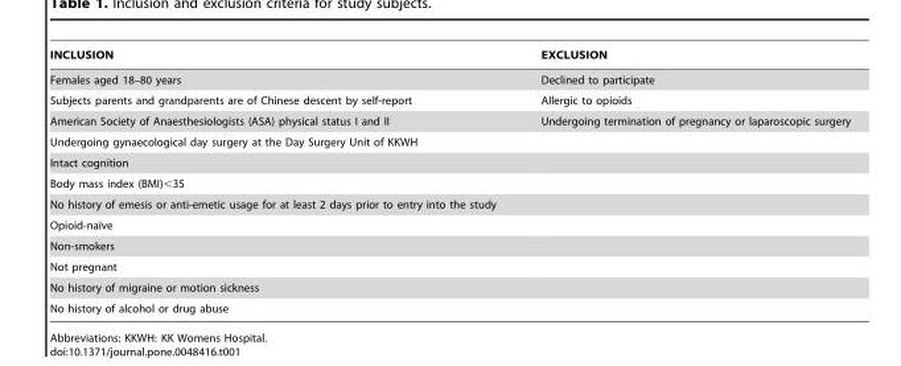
<table><thead><tr><td>INCLUSION</td><td>EXCLUSION</td></tr></thead><tbody><tr><td>Females aged 18–80 years</td><td>Declined to participate</td></tr><tr><td>Subjects parents and grandparents are of Chinese descent by self-report</td><td>Allergic to opioids</td></tr><tr><td>American Society of Anaesthesiologists (ASA) physical status I and II</td><td>Undergoing termination of pregnancy or laparoscopic surgery</td></tr><tr><td colspan="2">Undergoing gynaecological day surgery at the Day Surgery Unit of KKWH</td></tr><tr><td colspan="2">Intact cognition</td></tr><tr><td colspan="2">Body mass index (BMI)&lt;35</td></tr><tr><td colspan="2">No history of emesis or anti-emetic usage for at least 2 days prior to entry into the study</td></tr><tr><td colspan="2">Opioid-naı¨ve</td></tr><tr><td colspan="2">Non-smokers</td></tr><tr><td colspan="2">Not pregnant</td></tr><tr><td colspan="2">No history of migraine or motion sickness</td></tr><tr><td>No history of alcohol or drug abuse</td><td></td></tr></tbody></table>